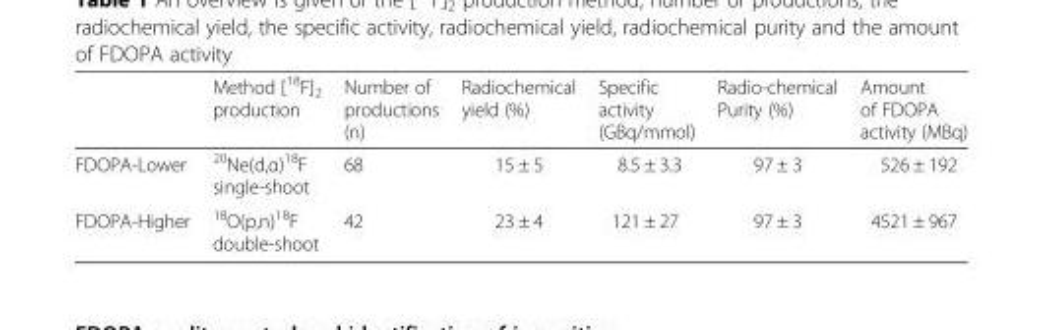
<table><thead><tr><td></td><td>Method [<sup>18</sup>F]<sub>2</sub> production</td><td>Number of productions (n)</td><td>Radiochemical yield (%)</td><td>Specific activity (GBq/mmol)</td><td>Radio-chemical Purity (%)</td><td>Amount of FDOPA activity (MBq)</td></tr></thead><tbody><tr><td>FDOPA-Lower</td><td><sup>20</sup>Ne(d,α)<sup>18</sup>F single-shoot</td><td>68</td><td>15 ± 5</td><td>8.5 ± 3.3</td><td>97 ± 3</td><td>526 ± 192</td></tr><tr><td>FDOPA-Higher</td><td><sup>18</sup>O(p,n)<sup>18</sup>F double-shoot</td><td>42</td><td>23 ± 4</td><td>121 ± 27</td><td>97 ± 3</td><td>4521 ± 967</td></tr></tbody></table>